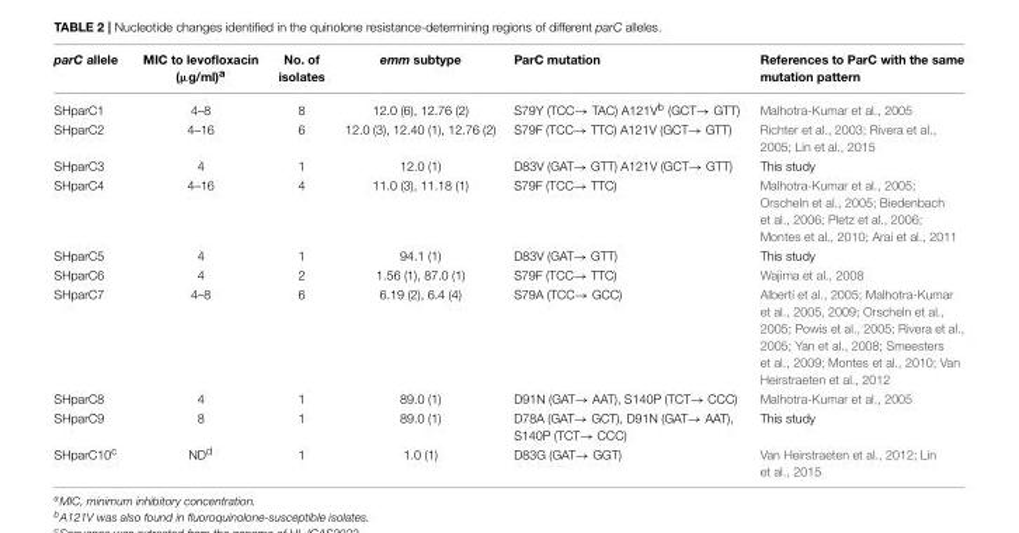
<table><thead><tr><td>parC allele</td><td>MIC to levofloxacin (µg/ml)<sup>a</sup></td><td>No. of isolates</td><td>emm subtype</td><td>ParC mutation</td><td>References to ParC with the same mutation pattern</td></tr></thead><tbody><tr><td>SHparC1</td><td>4–8</td><td>8</td><td>12.0 (6), 12.76 (2)</td><td>S79Y (TCC→ TAC) A121V<sup>b</sup> (GCT→ GTT)</td><td>Malhotra-Kumar et al., 2005</td></tr><tr><td>SHparC2</td><td>4–16</td><td>6</td><td>12.0 (3), 12.40 (1), 12.76 (2)</td><td>S79F (TCC→ TTC) A121V (GCT→ GTT)</td><td>Richter et al., 2003; Rivera et al., 2005; Lin et al., 2015</td></tr><tr><td>SHparC3</td><td>4</td><td>1</td><td>12.0 (1)</td><td>D83V (GAT→ GTT) A121V (GCT→ GTT)</td><td>This study</td></tr><tr><td>SHparC4</td><td>4–16</td><td>4</td><td>11.0 (3), 11.18 (1)</td><td>S79F (TCC→ TTC)</td><td>Malhotra-Kumar et al., 2005; Orscheln et al., 2005; Biedenbach et al., 2006; Pletz et al., 2006; Montes et al., 2010; Arai et al., 2011</td></tr><tr><td>SHparC5</td><td>4</td><td>1</td><td>94.1 (1)</td><td>D83V (GAT→ GTT)</td><td>This study</td></tr><tr><td>SHparC6</td><td>4</td><td>2</td><td>1.56 (1), 87.0 (1)</td><td>S79F (TCC→ TTC)</td><td>Wajima et al., 2008</td></tr><tr><td>SHparC7</td><td>4–8</td><td>6</td><td>6.19 (2), 6.4 (4)</td><td>S79A (TCC→ GCC)</td><td>Albertí et al., 2005; Malhotra-Kumar et al., 2005, 2009; Orscheln et al., 2005; Powis et al., 2005; Rivera et al., 2005; Yan et al., 2008; Smeesters et al., 2009; Montes et al., 2010; Van Heirstraeten et al., 2012</td></tr><tr><td>SHparC8</td><td>4</td><td>1</td><td>89.0 (1)</td><td>D91N (GAT→ AAT), S140P (TCT→ CCC)</td><td>Malhotra-Kumar et al., 2005</td></tr><tr><td>SHparC9</td><td>8</td><td>1</td><td>89.0 (1)</td><td>D78A (GAT→ GCT), D91N (GAT→ AAT), S140P (TCT→ CCC)</td><td>This study</td></tr><tr><td>SHparC10<sup>c</sup></td><td>ND<sup>d</sup></td><td>1</td><td>1.0 (1)</td><td>D83G (GAT→ GGT)</td><td>Van Heirstraeten et al., 2012; Lin et al., 2015</td></tr></tbody></table>